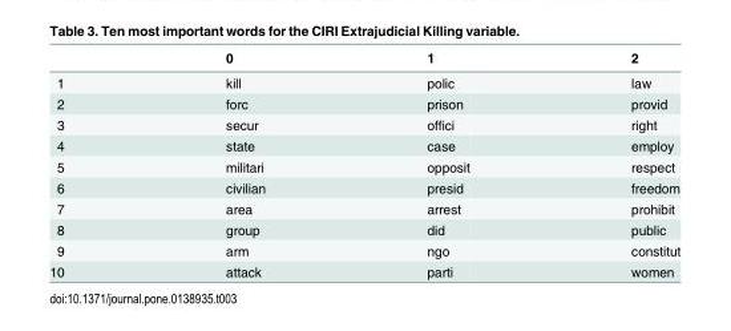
<table><thead><tr><td></td><td>0</td><td>1</td><td>2</td></tr></thead><tbody><tr><td>1</td><td>kill</td><td>polic</td><td>law</td></tr><tr><td>2</td><td>forc</td><td>prison</td><td>provid</td></tr><tr><td>3</td><td>secur</td><td>offici</td><td>right</td></tr><tr><td>4</td><td>state</td><td>case</td><td>employ</td></tr><tr><td>5</td><td>militari</td><td>opposit</td><td>respect</td></tr><tr><td>6</td><td>civilian</td><td>presid</td><td>freedom</td></tr><tr><td>7</td><td>area</td><td>arrest</td><td>prohibit</td></tr><tr><td>8</td><td>group</td><td>did</td><td>public</td></tr><tr><td>9</td><td>arm</td><td>ngo</td><td>constitut</td></tr><tr><td>10</td><td>attack</td><td>parti</td><td>women</td></tr></tbody></table>